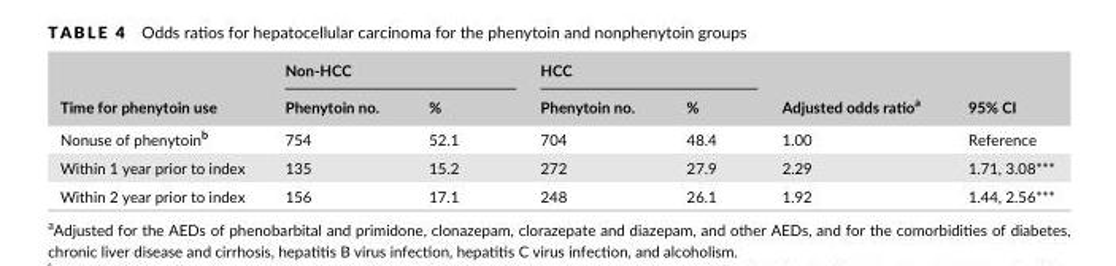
<table><thead><tr><td rowspan="2">Time for phenytoin use</td><td colspan="2">Non- HCC</td><td colspan="2">HCC</td><td rowspan="2">Adjusted odds ratio<sup>a</sup></td><td rowspan="2">95% CI</td></tr><tr><td>Phenytoin no.</td><td>%</td><td>Phenytoin no.</td><td>%</td></tr></thead><tbody><tr><td>Nonuse of phenytoin<sup>b</sup></td><td>754</td><td>52.1</td><td>704</td><td>48.4</td><td>1.00</td><td>Reference</td></tr><tr><td>Within 1 year prior to index</td><td>135</td><td>15.2</td><td>272</td><td>27.9</td><td>2.29</td><td>1.71, 3.08***</td></tr><tr><td>Within 2 year prior to index</td><td>156</td><td>17.1</td><td>248</td><td>26.1</td><td>1.92</td><td>1.44, 2.56***</td></tr></tbody></table>